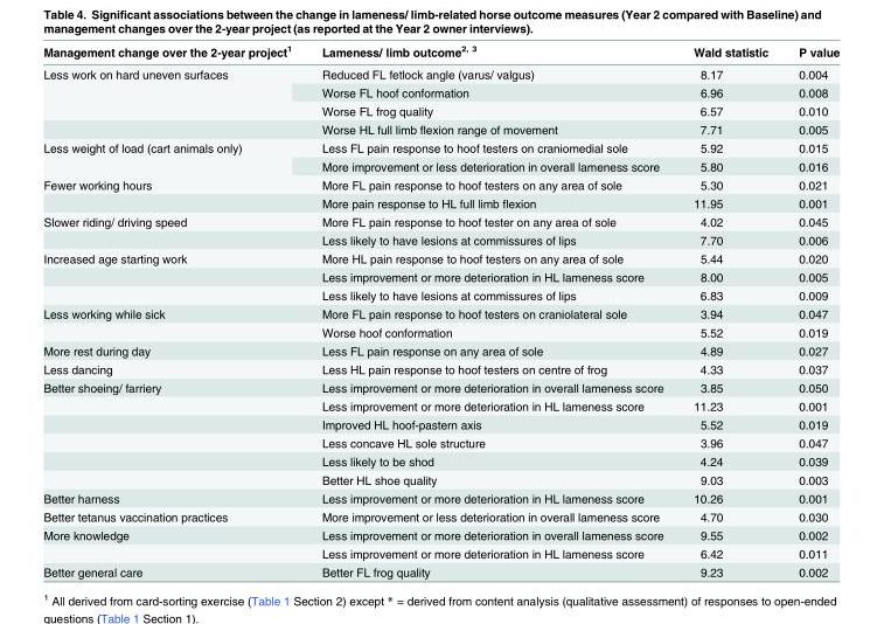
<table><thead><tr><td>Management change over the 2-year project<sup>1</sup></td><td>Lameness/ limb outcome<sup>2, 3</sup></td><td>Wald statistic</td><td>P value</td></tr></thead><tbody><tr><td rowspan="4">Less work on hard uneven surfaces</td><td>Reduced FL fetlock angle (varus/ valgus)</td><td>8.17</td><td>0.004</td></tr><tr><td>Worse FL hoof conformation</td><td>6.96</td><td>0.008</td></tr><tr><td>Worse FL frog quality</td><td>6.57</td><td>0.010</td></tr><tr><td>Worse HL full limb flexion range of movement</td><td>7.71</td><td>0.005</td></tr><tr><td rowspan="2">Less weight of load (cart animals only)</td><td>Less FL pain response to hoof testers on craniomedial sole</td><td>5.92</td><td>0.015</td></tr><tr><td>More improvement or less deterioration in overall lameness score</td><td>5.80</td><td>0.016</td></tr><tr><td rowspan="2">Fewer working hours</td><td>More FL pain response to hoof testers on any area of sole</td><td>5.30</td><td>0.021</td></tr><tr><td>More pain response to HL full limb flexion</td><td>11.95</td><td>0.001</td></tr><tr><td rowspan="2">Slower riding/ driving speed</td><td>More FL pain response to hoof tester on any area of sole</td><td>4.02</td><td>0.045</td></tr><tr><td>Less likely to have lesions at commissures of lips</td><td>7.70</td><td>0.006</td></tr><tr><td rowspan="3">Increased age starting work</td><td>More HL pain response to hoof testers on any area of sole</td><td>5.44</td><td>0.020</td></tr><tr><td>Less improvement or more deterioration in HL lameness score</td><td>8.00</td><td>0.005</td></tr><tr><td>Less likely to have lesions at commissures of lips</td><td>6.83</td><td>0.009</td></tr><tr><td rowspan="2">Less working while sick</td><td>More FL pain response to hoof testers on craniolateral sole</td><td>3.94</td><td>0.047</td></tr><tr><td>Worse hoof conformation</td><td>5.52</td><td>0.019</td></tr><tr><td>More rest during day</td><td>Less FL pain response on any area of sole</td><td>4.89</td><td>0.027</td></tr><tr><td>Less dancing</td><td>Less HL pain response to hoof testers on centre of frog</td><td>4.33</td><td>0.037</td></tr><tr><td rowspan="6">Better shoeing/ farriery</td><td>Less improvement or more deterioration in overall lameness score</td><td>3.85</td><td>0.050</td></tr><tr><td>Less improvement or more deterioration in HL lameness score</td><td>11.23</td><td>0.001</td></tr><tr><td>Improved HL hoof-pastern axis</td><td>5.52</td><td>0.019</td></tr><tr><td>Less concave HL sole structure</td><td>3.96</td><td>0.047</td></tr><tr><td>Less likely to be shod</td><td>4.24</td><td>0.039</td></tr><tr><td>Better HL shoe quality</td><td>9.03</td><td>0.003</td></tr><tr><td>Better harness</td><td>Less improvement or more deterioration in HL lameness score</td><td>10.26</td><td>0.001</td></tr><tr><td>Better tetanus vaccination practices</td><td>More improvement or less deterioration in overall lameness score</td><td>4.70</td><td>0.030</td></tr><tr><td rowspan="2">More knowledge</td><td>Less improvement or more deterioration in overall lameness score</td><td>9.55</td><td>0.002</td></tr><tr><td>Less improvement or more deterioration in HL lameness score</td><td>6.42</td><td>0.011</td></tr><tr><td>Better general care</td><td>Better FL frog quality</td><td>9.23</td><td>0.002</td></tr></tbody></table>